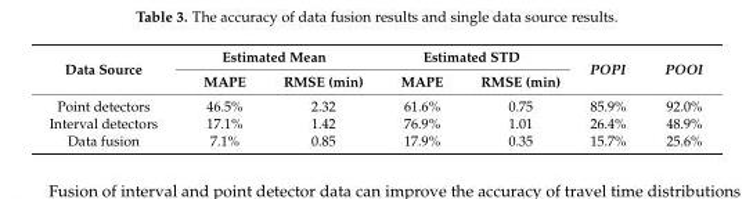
<table><thead><tr><td rowspan="2">Data Source</td><td colspan="2">Estimated Mean</td><td colspan="2">Estimated STD</td><td rowspan="2">POPI</td><td rowspan="2">POOI</td></tr><tr><td>MAPE</td><td>RMSE (min)</td><td>MAPE</td><td>RMSE (min)</td></tr></thead><tbody><tr><td>Point detectors</td><td>46.5%</td><td>2.32</td><td>61.6%</td><td>0.75</td><td>85.9%</td><td>92.0%</td></tr><tr><td>Interval detectors</td><td>17.1%</td><td>1.42</td><td>76.9%</td><td>1.01</td><td>26.4%</td><td>48.9%</td></tr><tr><td>Data fusion</td><td>7.1%</td><td>0.85</td><td>17.9%</td><td>0.35</td><td>15.7%</td><td>25.6%</td></tr></tbody></table>